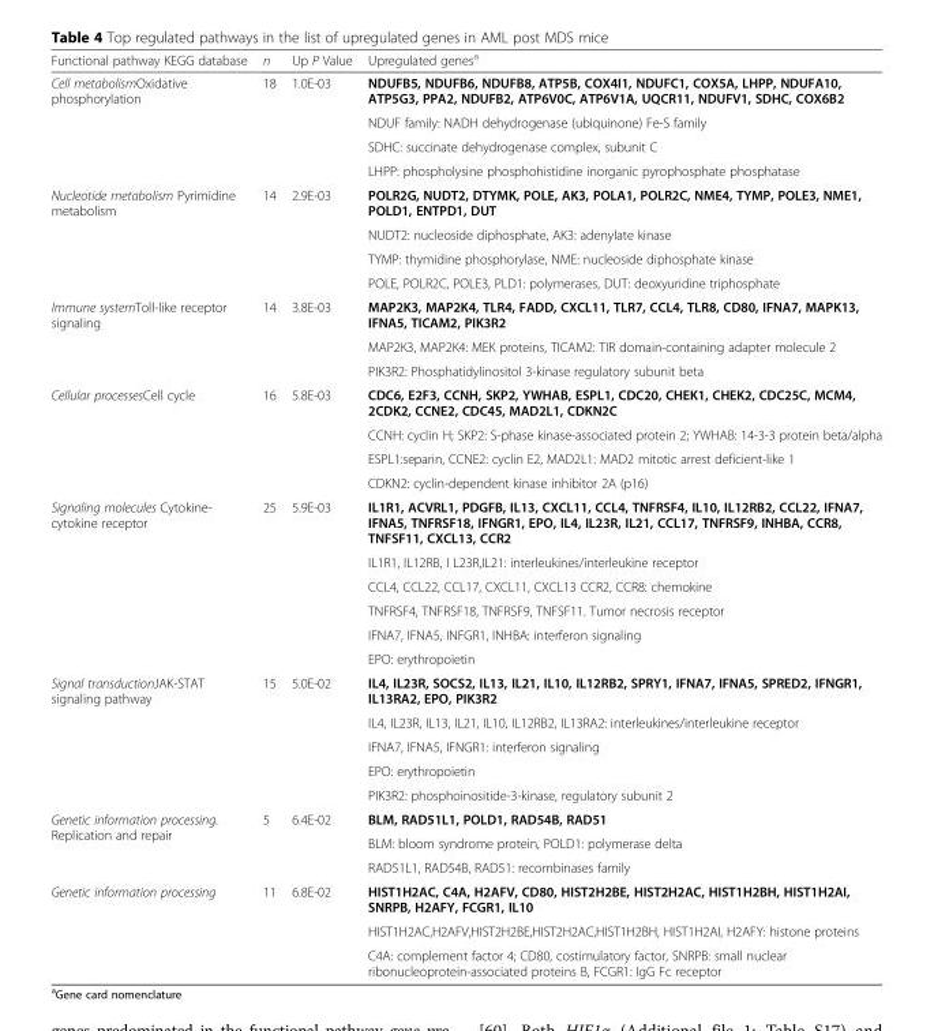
<table><thead><tr><td>Functional pathway KEGG database</td><td>n</td><td>Up P Value</td><td>Upregulated genes<sup>a</sup></td></tr></thead><tbody><tr><td rowspan="4">Cell metabolismOxidative phosphorylation</td><td rowspan="4">18</td><td rowspan="4">1.0E-03</td><td>NDUFB5, NDUFB6, NDUFB8, ATP5B, COX4I1, NDUFC1, COX5A, LHPP, NDUFA10, ATP5G3, PPA2, NDUFB2, ATP6V0C, ATP6V1A, UQCR11, NDUFV1, SDHC, COX6B2</td></tr><tr><td>NDUF family: NADH dehydrogenase (ubiquinone) Fe-S family</td></tr><tr><td>SDHC: succinate dehydrogenase complex, subunit C</td></tr><tr><td>LHPP: phospholysine phosphohistidine inorganic pyrophosphate phosphatase</td></tr><tr><td rowspan="4">Nucleotide metabolism Pyrimidine metabolism</td><td rowspan="4">14</td><td rowspan="4">2.9E-03</td><td>POLR2G, NUDT2, DTYMK, POLE, AK3, POLA1, POLR2C, NME4, TYMP, POLE3, NME1, POLD1, ENTPD1, DUT</td></tr><tr><td>NUDT2: nucleoside diphosphate, AK3: adenylate kinase</td></tr><tr><td>TYMP: thymidine phosphorylase, NME: nucleoside diphosphate kinase</td></tr><tr><td>POLE, POLR2C, POLE3, PLD1: polymerases, DUT: deoxyuridine triphosphate</td></tr><tr><td rowspan="3">Immune systemToll-like receptor signaling</td><td rowspan="3">14</td><td rowspan="3">3.8E-03</td><td>MAP2K3, MAP2K4, TLR4, FADD, CXCL11, TLR7, CCL4, TLR8, CD80, IFNA7, MAPK13, IFNA5, TICAM2, PIK3R2</td></tr><tr><td>MAP2K3, MAP2K4: MEK proteins, TICAM2: TIR domain-containing adapter molecule 2</td></tr><tr><td>PIK3R2: Phosphatidylinositol 3-kinase regulatory subunit beta</td></tr><tr><td rowspan="4">Cellular processesCell cycle</td><td rowspan="4">16</td><td rowspan="4">5.8E-03</td><td>CDC6, E2F3, CCNH, SKP2, YWHAB, ESPL1, CDC20, CHEK1, CHEK2, CDC25C, MCM4, 2CDK2, CCNE2, CDC45, MAD2L1, CDKN2C</td></tr><tr><td>CCNH: cyclin H; SKP2: S-phase kinase-associated protein 2; YWHAB: 14-3-3 protein beta/alpha</td></tr><tr><td>ESPL1:separin, CCNE2: cyclin E2, MAD2L1: MAD2 mitotic arrest deficient-like 1</td></tr><tr><td>CDKN2: cyclin-dependent kinase inhibitor 2A (p16)</td></tr><tr><td rowspan="6">Signaling molecules Cytokine- cytokine receptor</td><td rowspan="6">25</td><td rowspan="6">5.9E-03</td><td>IL1R1, ACVRL1, PDGFB, IL13, CXCL11, CCL4, TNFRSF4, IL10, IL12RB2, CCL22, IFNA7, IFNA5, TNFRSF18, IFNGR1, EPO, IL4, IL23R, IL21, CCL17, TNFRSF9, INHBA, CCR8, TNFSF11, CXCL13, CCR2</td></tr><tr><td>IL1R1, IL12RB, I L23R,IL21: interleukines/interleukine receptor</td></tr><tr><td>CCL4, CCL22, CCL17, CXCL11, CXCL13 CCR2, CCR8: chemokine</td></tr><tr><td>TNFRSF4, TNFRSF18, TNFRSF9, TNFSF11. Tumor necrosis receptor</td></tr><tr><td>IFNA7, IFNA5, INFGR1, INHBA: interferon signaling</td></tr><tr><td>EPO: erythropoietin</td></tr><tr><td rowspan="5">Signal transductionJAK-STAT signaling pathway</td><td rowspan="5">15</td><td rowspan="5">5.0E-02</td><td>IL4, IL23R, SOCS2, IL13, IL21, IL10, IL12RB2, SPRY1, IFNA7, IFNA5, SPRED2, IFNGR1, IL13RA2, EPO, PIK3R2</td></tr><tr><td>IL4, IL23R, IL13, IL21, IL10, IL12RB2, IL13RA2: interleukines/interleukine receptor</td></tr><tr><td>IFNA7, IFNA5, IFNGR1: interferon signaling</td></tr><tr><td>EPO: erythropoietin</td></tr><tr><td>PIK3R2: phosphoinositide-3-kinase, regulatory subunit 2</td></tr><tr><td rowspan="3">Genetic information processing. Replication and repair</td><td rowspan="3">5</td><td rowspan="3">6.4E-02</td><td>BLM, RAD51L1, POLD1, RAD54B, RAD51</td></tr><tr><td>BLM: bloom syndrome protein, POLD1: polymerase delta</td></tr><tr><td>RAD51L1, RAD54B, RAD51: recombinases family</td></tr><tr><td rowspan="3">Genetic information processing</td><td rowspan="3">11</td><td rowspan="3">6.8E-02</td><td>HIST1H2AC, C4A, H2AFV, CD80, HIST2H2BE, HIST2H2AC, HIST1H2BH, HIST1H2AI, SNRPB, H2AFY, FCGR1, IL10</td></tr><tr><td>HIST1H2AC,H2AFV,HIST2H2BE,HIST2H2AC,HIST1H2BH, HIST1H2AI, H2AFY: histone proteins</td></tr><tr><td>C4A: complement factor 4; CD80, costimulatory factor, SNRPB: small nuclear ribonucleoprotein-associated proteins B, FCGR1: IgG Fc receptor</td></tr></tbody></table>